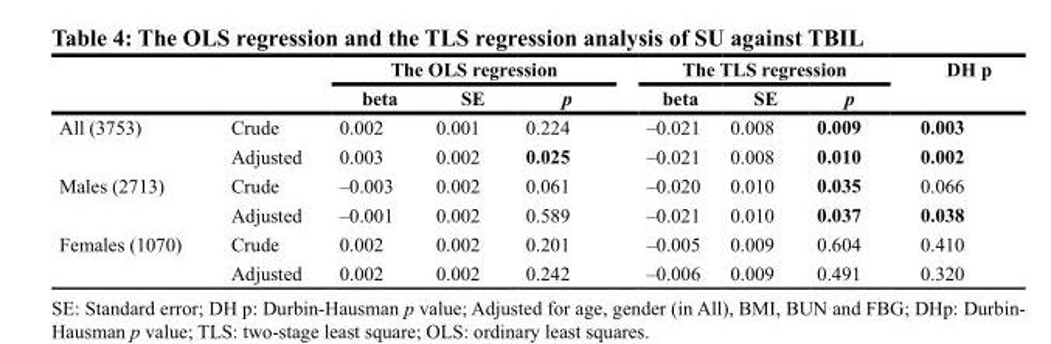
<table><thead><tr><td rowspan="2"></td><td rowspan="2"></td><td colspan="3">The OLS regression</td><td colspan="3">The TLS regression</td><td rowspan="2">DH p</td></tr><tr><td>beta</td><td>SE</td><td>p</td><td>beta</td><td>SE</td><td>p</td></tr></thead><tbody><tr><td rowspan="2">All (3753)</td><td>Crude</td><td>0.002</td><td>0.001</td><td>0.224</td><td>–0.021</td><td>0.008</td><td>0.009</td><td>0.003</td></tr><tr><td>Adjusted</td><td>0.003</td><td>0.002</td><td>0.025</td><td>–0.021</td><td>0.008</td><td>0.010</td><td>0.002</td></tr><tr><td rowspan="2">Males (2713)</td><td>Crude</td><td>–0.003</td><td>0.002</td><td>0.061</td><td>–0.020</td><td>0.010</td><td>0.035</td><td>0.066</td></tr><tr><td>Adjusted</td><td>–0.001</td><td>0.002</td><td>0.589</td><td>–0.021</td><td>0.010</td><td>0.037</td><td>0.038</td></tr><tr><td rowspan="2">Females (1070)</td><td>Crude</td><td>0.002</td><td>0.002</td><td>0.201</td><td>–0.005</td><td>0.009</td><td>0.604</td><td>0.410</td></tr><tr><td>Adjusted</td><td>0.002</td><td>0.002</td><td>0.242</td><td>–0.006</td><td>0.009</td><td>0.491</td><td>0.320</td></tr></tbody></table>